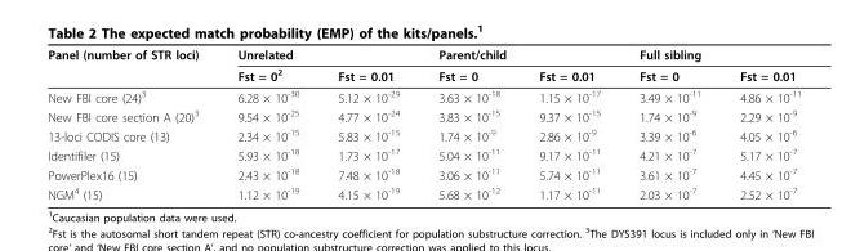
<table><thead><tr><td rowspan="2">Panel (number of STR loci)</td><td colspan="2">Unrelated</td><td colspan="2">Parent/child</td><td colspan="2">Full sibling</td></tr><tr><td>Fst = 0<sup>2</sup></td><td>Fst = 0.01</td><td>Fst = 0</td><td>Fst = 0.01</td><td>Fst = 0</td><td>Fst = 0.01</td></tr></thead><tbody><tr><td>New FBI core (24)<sup>3</sup></td><td>6.28 × 10<sup>-30</sup></td><td>5.12 × 10<sup>-29</sup></td><td>3.63 × 10<sup>-18</sup></td><td>1.15 × 10<sup>-17</sup></td><td>3.49 × 10<sup>-11</sup></td><td>4.86 × 10<sup>-11</sup></td></tr><tr><td>New FBI core section A (20)<sup>3</sup></td><td>9.54 × 10<sup>-25</sup></td><td>4.77 × 10<sup>-24</sup></td><td>3.83 × 10<sup>-15</sup></td><td>9.37 × 10<sup>-15</sup></td><td>1.74 × 10<sup>-9</sup></td><td>2.29 × 10<sup>-9</sup></td></tr><tr><td>13-loci CODIS core (13)</td><td>2.34 × 10<sup>-15</sup></td><td>5.83 × 10<sup>-15</sup></td><td>1.74 × 10<sup>-9</sup></td><td>2.86 × 10<sup>-9</sup></td><td>3.39 × 10<sup>-6</sup></td><td>4.05 × 10<sup>-6</sup></td></tr><tr><td>Identifiler (15)</td><td>5.93 × 10<sup>-18</sup></td><td>1.73 × 10<sup>-17</sup></td><td>5.04 × 10<sup>-11</sup></td><td>9.17 × 10<sup>-11</sup></td><td>4.21 × 10<sup>-7</sup></td><td>5.17 × 10<sup>-7</sup></td></tr><tr><td>PowerPlex16 (15)</td><td>2.43 × 10<sup>-18</sup></td><td>7.48 × 10<sup>-18</sup></td><td>3.06 × 10<sup>-11</sup></td><td>5.74 × 10<sup>-11</sup></td><td>3.61 × 10<sup>-7</sup></td><td>4.45 × 10<sup>-7</sup></td></tr><tr><td>NGM<sup>4</sup> (15)</td><td>1.12 × 10<sup>-19</sup></td><td>4.15 × 10<sup>-19</sup></td><td>5.68 × 10<sup>-12</sup></td><td>1.17 × 10<sup>-11</sup></td><td>2.03 × 10<sup>-7</sup></td><td>2.52 × 10<sup>-7</sup></td></tr></tbody></table>